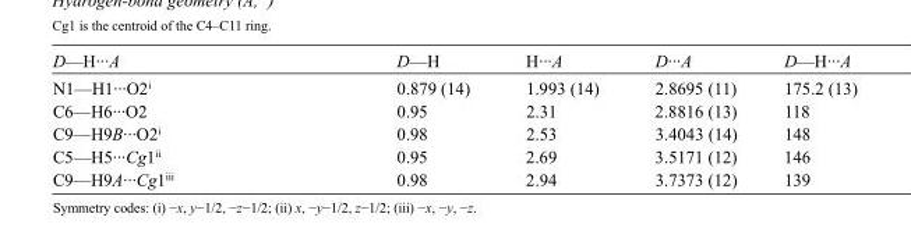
<table><tbody><tr><td>D—H···A</td><td>D—H</td><td>H···A</td><td>D···A</td><td>D—H···A</td></tr><tr><td>N1—H1···O2<sup>i</sup></td><td>0.879 (14)</td><td>1.993 (14)</td><td>2.8695 (11)</td><td>175.2 (13)</td></tr><tr><td>C6—H6···O2</td><td>0.95</td><td>2.31</td><td>2.8816 (13)</td><td>118</td></tr><tr><td>C9—H9B···O2<sup>i</sup></td><td>0.98</td><td>2.53</td><td>3.4043 (14)</td><td>148</td></tr><tr><td>C5—H5···Cg1<sup>ii</sup></td><td>0.95</td><td>2.69</td><td>3.5171 (12)</td><td>146</td></tr><tr><td>C9—H9A···Cg1<sup>iii</sup></td><td>0.98</td><td>2.94</td><td>3.7373 (12)</td><td>139</td></tr></tbody></table>